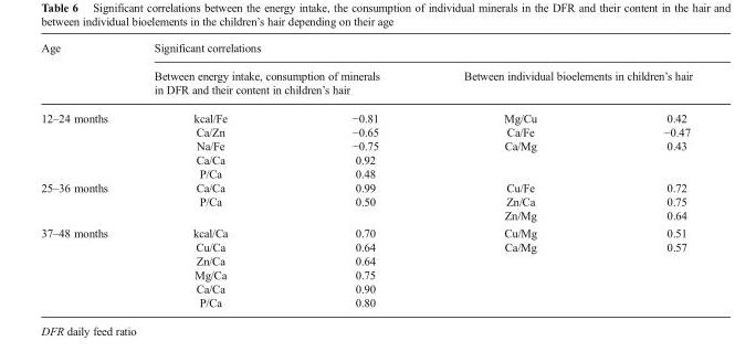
<table><thead><tr><td rowspan="3">Age 12–24 months</td><td colspan="4">Significant correlations</td></tr><tr><td colspan="2">Between energy intake, consumption of minerals in DFR and their content in children’s hair</td><td colspan="2">Between individual bioelements in children’s hair</td></tr><tr><td>kcal/Fe Ca/Zn Na/Fe Ca/Ca P/Ca</td><td>−0.81 −0.65 −0.75 0.92 0.48</td><td>Mg/Cu Ca/Fe Ca/Mg</td><td>0.42 −0.47 0.43</td></tr></thead><tbody><tr><td>25–36 months</td><td>Ca/Ca P/Ca</td><td>0.99 0.50</td><td>Cu/Fe Zn/Ca Zn/Mg</td><td>0.72 0.75 0.64</td></tr><tr><td>37–48 months</td><td>kcal/Ca Cu/Ca Zn/Ca Mg/Ca Ca/Ca P/Ca</td><td>0.70 0.64 0.64 0.75 0.90 0.80</td><td>Cu/Mg Ca/Mg</td><td>0.51 0.57</td></tr></tbody></table>